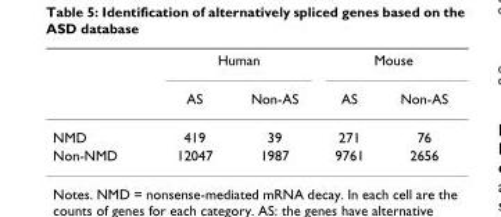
<table><thead><tr><td rowspan="2"></td><td colspan="2">Human</td><td colspan="2">Mouse</td></tr><tr><td>AS</td><td>Non-AS</td><td>AS</td><td>Non-AS</td></tr></thead><tbody><tr><td>NMD</td><td>419</td><td>39</td><td>271</td><td>76</td></tr><tr><td>Non-NMD</td><td>12047</td><td>1987</td><td>9761</td><td>2656</td></tr></tbody></table>